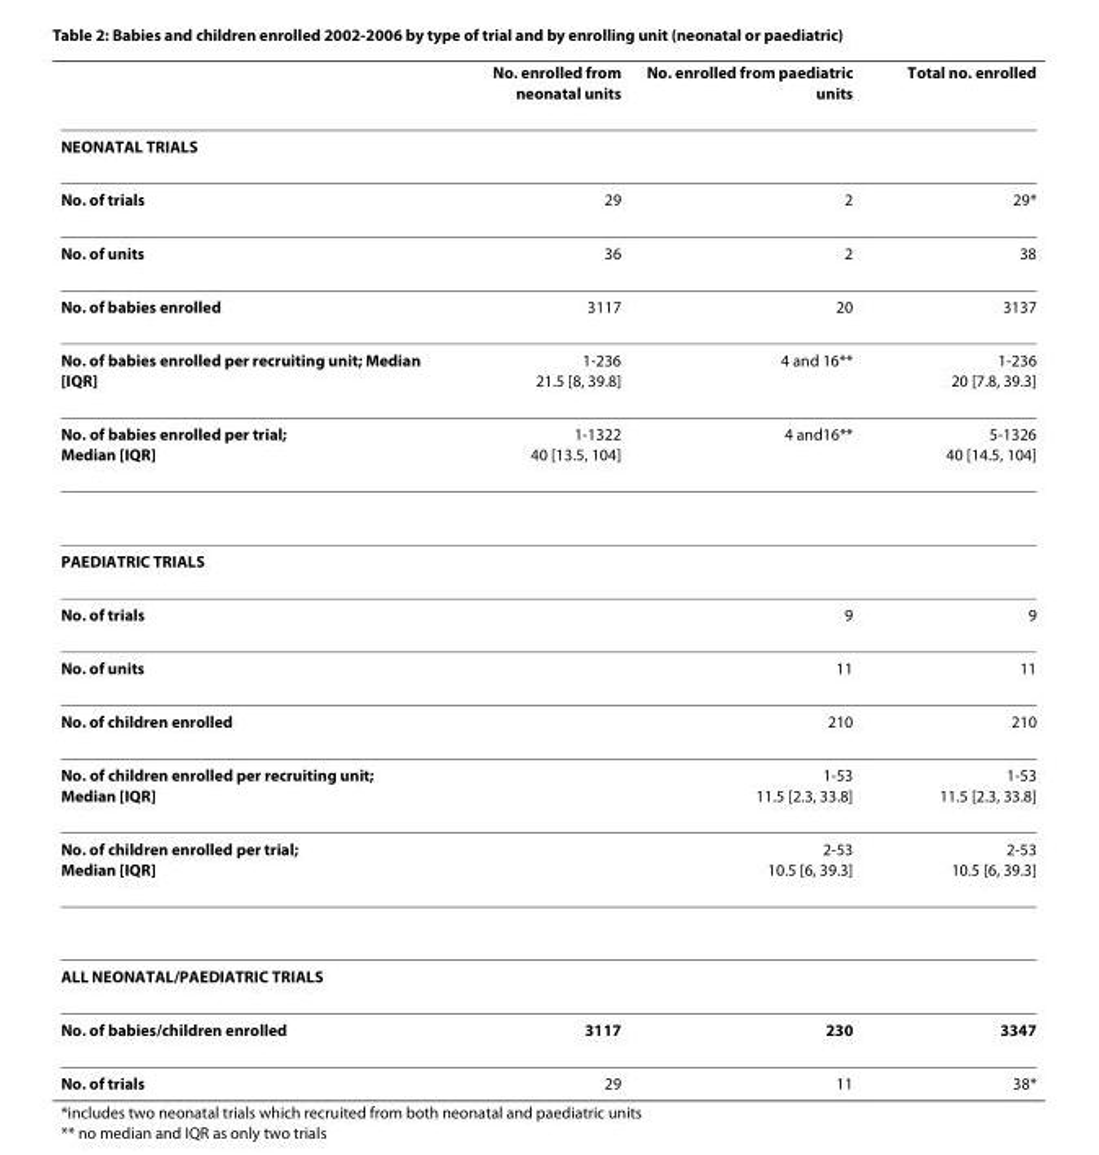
<table><thead><tr><td></td><td>No. enrolled from neonatal units</td><td>No. enrolled from paediatric units</td><td>Total no. enrolled</td></tr></thead><tbody><tr><td colspan="4">NEONATAL TRIALS</td></tr><tr><td>No. of trials</td><td>29</td><td>2</td><td>29*</td></tr><tr><td>No. of units</td><td>36</td><td>2</td><td>38</td></tr><tr><td>No. of babies enrolled</td><td>3117</td><td>20</td><td>3137</td></tr><tr><td>No. of babies enrolled per recruiting unit; Median [IQR]</td><td>1-236 21.5 [8, 39.8]</td><td>4 and 16**</td><td>1-236 20 [7.8, 39.3]</td></tr><tr><td>No. of babies enrolled per trial; Median [IQR]</td><td>1-1322 40 [13.5, 104]</td><td>4 and16**</td><td>5-1326 40 [14.5, 104]</td></tr><tr><td colspan="4">PAEDIATRIC TRIALS</td></tr><tr><td>No. of trials</td><td></td><td>9</td><td>9</td></tr><tr><td>No. of units</td><td></td><td>11</td><td>11</td></tr><tr><td>No. of children enrolled</td><td></td><td>210</td><td>210</td></tr><tr><td>No. of children enrolled per recruiting unit; Median [IQR]</td><td></td><td>1-53 11.5 [2.3, 33.8]</td><td>1-53 11.5 [2.3, 33.8]</td></tr><tr><td>No. of children enrolled per trial; Median [IQR]</td><td></td><td>2-53 10.5 [6, 39.3]</td><td>2-53 10.5 [6, 39.3]</td></tr><tr><td colspan="4">ALL NEONATAL/PAEDIATRIC TRIALS</td></tr><tr><td>No. of babies/children enrolled</td><td>3117</td><td>230</td><td>3347</td></tr><tr><td>No. of trials</td><td>29</td><td>11</td><td>38*</td></tr></tbody></table>